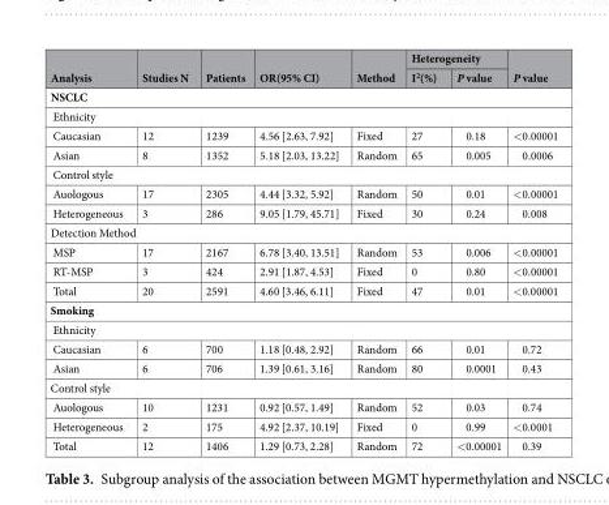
<table><thead><tr><td rowspan="2">Analysis</td><td rowspan="2">Studies N</td><td rowspan="2">Patients</td><td rowspan="2">OR(95% CI)</td><td rowspan="2">Method</td><td colspan="2">Heterogeneity</td><td rowspan="2">P value</td></tr><tr><td>I<sup>2</sup>(%)</td><td>P value</td></tr></thead><tbody><tr><td colspan="8">NSCLC</td></tr><tr><td colspan="8">Ethnicity</td></tr><tr><td>Caucasian</td><td>12</td><td>1239</td><td>4.56 [2.63, 7.92]</td><td>Fixed</td><td>27</td><td>0.18</td><td>&lt;0.00001</td></tr><tr><td>Asian</td><td>8</td><td>1352</td><td>5.18 [2.03, 13.22]</td><td>Random</td><td>65</td><td>0.005</td><td>0.0006</td></tr><tr><td colspan="8">Control style</td></tr><tr><td>Auologous</td><td>17</td><td>2305</td><td>4.44 [3.32, 5.92]</td><td>Random</td><td>50</td><td>0.01</td><td>&lt;0.00001</td></tr><tr><td>Heterogeneous</td><td>3</td><td>286</td><td>9.05 [1.79, 45.71]</td><td>Fixed</td><td>30</td><td>0.24</td><td>0.008</td></tr><tr><td colspan="8">Detection Method</td></tr><tr><td>MSP</td><td>17</td><td>2167</td><td>6.78 [3.40, 13.51]</td><td>Random</td><td>53</td><td>0.006</td><td>&lt;0.00001</td></tr><tr><td>RT-MSP</td><td>3</td><td>424</td><td>2.91 [1.87, 4.53]</td><td>Fixed</td><td>0</td><td>0.80</td><td>&lt;0.00001</td></tr><tr><td>Total</td><td>20</td><td>2591</td><td>4.60 [3.46, 6.11]</td><td>Fixed</td><td>47</td><td>0.01</td><td>&lt;0.00001</td></tr><tr><td colspan="8">Smoking</td></tr><tr><td colspan="8">Ethnicity</td></tr><tr><td>Caucasian</td><td>6</td><td>700</td><td>1.18 [0.48, 2.92]</td><td>Random</td><td>66</td><td>0.01</td><td>0.72</td></tr><tr><td>Asian</td><td>6</td><td>706</td><td>1.39 [0.61, 3.16]</td><td>Random</td><td>80</td><td>0.0001</td><td>0.43</td></tr><tr><td colspan="8">Control style</td></tr><tr><td>Auologous</td><td>10</td><td>1231</td><td>0.92 [0.57, 1.49]</td><td>Random</td><td>52</td><td>0.03</td><td>0.74</td></tr><tr><td>Heterogeneous</td><td>2</td><td>175</td><td>4.92 [2.37, 10.19]</td><td>Fixed</td><td>0</td><td>0.99</td><td>&lt;0.0001</td></tr><tr><td>Total</td><td>12</td><td>1406</td><td>1.29 [0.73, 2.28]</td><td>Random</td><td>72</td><td>&lt;0.00001</td><td>0.39</td></tr></tbody></table>